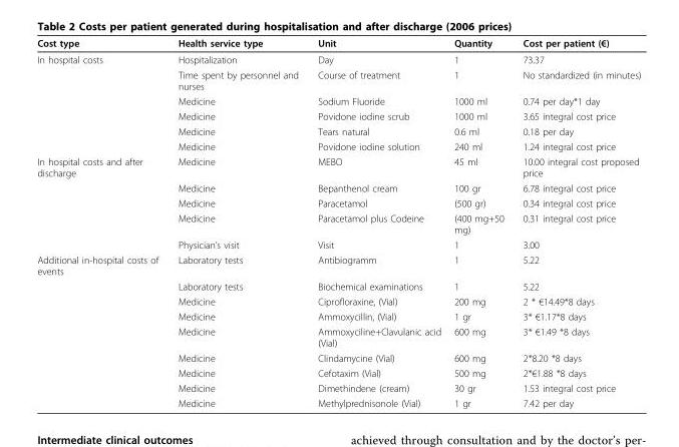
<table><thead><tr><td>Cost type</td><td>Health service type</td><td>Unit</td><td>Quantity</td><td>Cost per patient (€)</td></tr></thead><tbody><tr><td rowspan="6">In hospital costs</td><td>Hospitalization</td><td>Day</td><td>1</td><td>73.37</td></tr><tr><td>Time spent by personnel and nurses</td><td>Course of treatment</td><td>1</td><td>No standardized (in minutes)</td></tr><tr><td>Medicine</td><td>Sodium Fluoride</td><td>1000 ml</td><td>0.74 per day*1 day</td></tr><tr><td>Medicine</td><td>Povidone iodine scrub</td><td>1000 ml</td><td>3.65 integral cost price</td></tr><tr><td>Medicine</td><td>Tears natural</td><td>0.6 ml</td><td>0.18 per day</td></tr><tr><td>Medicine</td><td>Povidone iodine solution</td><td>240 ml</td><td>1.24 integral cost price</td></tr><tr><td rowspan="5">In hospital costs and after discharge</td><td>Medicine</td><td>MEBO</td><td>45 ml</td><td>10.00 integral cost proposed price</td></tr><tr><td>Medicine</td><td>Bepanthenol cream</td><td>100 gr</td><td>6.78 integral cost price</td></tr><tr><td>Medicine</td><td>Paracetamol</td><td>(500 gr)</td><td>0.34 integral cost price</td></tr><tr><td>Medicine</td><td>Paracetamol plus Codeine</td><td>(400 mg+50 mg)</td><td>0.31 integral cost price</td></tr><tr><td>Physician’s visit</td><td>Visit</td><td>1</td><td>3.00</td></tr><tr><td rowspan="9">Additional in-hospital costs of events</td><td>Laboratory tests</td><td>Antibiogramm</td><td>1</td><td>5.22</td></tr><tr><td>Laboratory tests</td><td>Biochemical examinations</td><td>1</td><td>5.22</td></tr><tr><td>Medicine</td><td>Ciprofloraxine, (Vial)</td><td>200 mg</td><td>2 * €14.49*8 days</td></tr><tr><td>Medicine</td><td>Ammoxycillin, (Vial)</td><td>1 gr</td><td>3* €1.17*8 days</td></tr><tr><td>Medicine</td><td>Ammoxyciline+Clavulanic acid (Vial)</td><td>600 mg</td><td>3* €1.49 *8 days</td></tr><tr><td>Medicine</td><td>Clindamycine (Vial)</td><td>600 mg</td><td>2*8.20 *8 days</td></tr><tr><td>Medicine</td><td>Cefotaxim (Vial)</td><td>500 mg</td><td>2*€1.88 *8 days</td></tr><tr><td>Medicine</td><td>Dimethindene (cream)</td><td>30 gr</td><td>1.53 integral cost price</td></tr><tr><td>Medicine</td><td>Methylprednisonole (Vial)</td><td>1 gr</td><td>7.42 per day</td></tr></tbody></table>